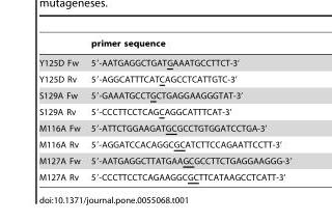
<table><thead><tr><td></td><td>primer sequence</td></tr></thead><tbody><tr><td>Y125D Fw</td><td>5′-AATGAGGCTGATGAAATGCCTTCT-3’</td></tr><tr><td>Y125D Rv</td><td>5′-AGGCATTTCATCAGCCTCATTGTC-3’</td></tr><tr><td>S129A Fw</td><td>5′-GAAATGCCTGCTGAGGAAGGGTAT-3’</td></tr><tr><td>S129A Rv</td><td>5′-CCCTTCCTCAGCAGGCATTTCAT-3’</td></tr><tr><td>M116A Fw</td><td>5′-ATTCTGGAAGATGCGCCTGTGGATCCTGA-3’</td></tr><tr><td>M116A Rv</td><td>5′-AGGATCCACAGGCGCATCTTCCAGAATTCCTT-3’</td></tr><tr><td>M127A Fw</td><td>5′-AATGAGGCTTATGAAGCGCCTTCTGAGGAAGGG-3′</td></tr><tr><td>M127A Rv</td><td>5′-CCCTTCCTCAGAAGGCGCTTCATAAGCCTCATT-3’</td></tr></tbody></table>